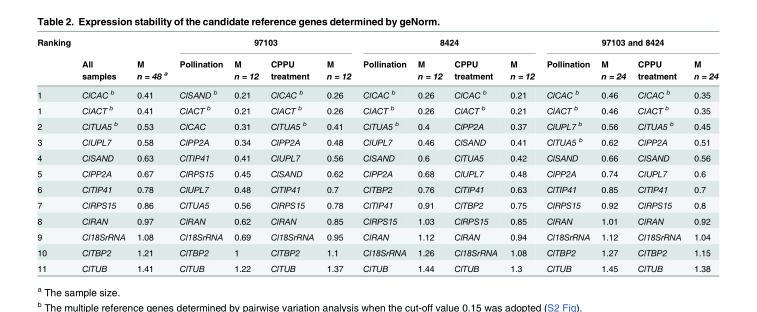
<table><thead><tr><td rowspan="2">Ranking</td><td rowspan="2">All samples</td><td rowspan="2">M n = 48 <sup>a</sup></td><td colspan="4">97103</td><td colspan="4">8424</td><td colspan="4">97103 and 8424</td></tr><tr><td>Pollination</td><td>M n = 12</td><td>CPPU treatment</td><td>M n = 12</td><td>Pollination</td><td>M n = 12</td><td>CPPU treatment</td><td>M n = 12</td><td>Pollination</td><td>M n = 24</td><td>CPPU treatment</td><td>M n = 24</td></tr></thead><tbody><tr><td>1</td><td>ClCAC <sup>b</sup></td><td>0.41</td><td>ClSAND <sup>b</sup></td><td>0.21</td><td>ClCAC <sup>b</sup></td><td>0.26</td><td>ClCAC <sup>b</sup></td><td>0.26</td><td>ClCAC <sup>b</sup></td><td>0.21</td><td>ClCAC <sup>b</sup></td><td>0.46</td><td>ClCAC <sup>b</sup></td><td>0.35</td></tr><tr><td>1</td><td>ClACT <sup>b</sup></td><td>0.41</td><td>ClACT <sup>b</sup></td><td>0.21</td><td>ClACT <sup>b</sup></td><td>0.26</td><td>ClACT <sup>b</sup></td><td>0.26</td><td>ClACT <sup>b</sup></td><td>0.21</td><td>ClACT <sup>b</sup></td><td>0.46</td><td>ClACT <sup>b</sup></td><td>0.35</td></tr><tr><td>2</td><td>ClTUA5 <sup>b</sup></td><td>0.53</td><td>ClCAC</td><td>0.31</td><td>ClTUA5 <sup>b</sup></td><td>0.41</td><td>ClTUA5 <sup>b</sup></td><td>0.4</td><td>ClPP2A</td><td>0.37</td><td>ClUPL7 <sup>b</sup></td><td>0.56</td><td>ClTUA5 <sup>b</sup></td><td>0.45</td></tr><tr><td>3</td><td>ClUPL7</td><td>0.58</td><td>ClPP2A</td><td>0.34</td><td>ClPP2A</td><td>0.48</td><td>ClUPL7</td><td>0.46</td><td>ClSAND</td><td>0.41</td><td>ClTUA5 <sup>b</sup></td><td>0.62</td><td>ClPP2A</td><td>0.51</td></tr><tr><td>4</td><td>ClSAND</td><td>0.63</td><td>ClTIP41</td><td>0.41</td><td>ClUPL7</td><td>0.56</td><td>ClSAND</td><td>0.6</td><td>ClTUA5</td><td>0.42</td><td>ClSAND</td><td>0.66</td><td>ClSAND</td><td>0.56</td></tr><tr><td>5</td><td>ClPP2A</td><td>0.67</td><td>ClRPS15</td><td>0.45</td><td>ClSAND</td><td>0.62</td><td>ClPP2A</td><td>0.68</td><td>ClUPL7</td><td>0.48</td><td>ClPP2A</td><td>0.74</td><td>ClUPL7</td><td>0.6</td></tr><tr><td>6</td><td>ClTIP41</td><td>0.78</td><td>ClUPL7</td><td>0.48</td><td>ClTIP41</td><td>0.7</td><td>ClTBP2</td><td>0.76</td><td>ClTIP41</td><td>0.63</td><td>ClTIP41</td><td>0.85</td><td>ClTIP41</td><td>0.7</td></tr><tr><td>7</td><td>ClRPS15</td><td>0.86</td><td>ClTUA5</td><td>0.56</td><td>ClRPS15</td><td>0.78</td><td>ClTIP41</td><td>0.91</td><td>ClTBP2</td><td>0.75</td><td>ClRPS15</td><td>0.92</td><td>ClRPS15</td><td>0.8</td></tr><tr><td>8</td><td>ClRAN</td><td>0.97</td><td>ClRAN</td><td>0.62</td><td>ClRAN</td><td>0.85</td><td>ClRPS15</td><td>1.03</td><td>ClRPS15</td><td>0.85</td><td>ClRAN</td><td>1.01</td><td>ClRAN</td><td>0.92</td></tr><tr><td>9</td><td>Cl18SrRNA</td><td>1.08</td><td>Cl18SrRNA</td><td>0.69</td><td>Cl18SrRNA</td><td>0.95</td><td>ClRAN</td><td>1.12</td><td>ClRAN</td><td>0.94</td><td>Cl18SrRNA</td><td>1.12</td><td>Cl18SrRNA</td><td>1.04</td></tr><tr><td>10</td><td>ClTBP2</td><td>1.21</td><td>ClTBP2</td><td>1</td><td>ClTBP2</td><td>1.1</td><td>Cl18SrRNA</td><td>1.26</td><td>Cl18SrRNA</td><td>1.08</td><td>ClTBP2</td><td>1.27</td><td>ClTBP2</td><td>1.15</td></tr><tr><td>11</td><td>ClTUB</td><td>1.41</td><td>ClTUB</td><td>1.22</td><td>ClTUB</td><td>1.37</td><td>ClTUB</td><td>1.44</td><td>ClTUB</td><td>1.3</td><td>ClTUB</td><td>1.45</td><td>ClTUB</td><td>1.38</td></tr></tbody></table>